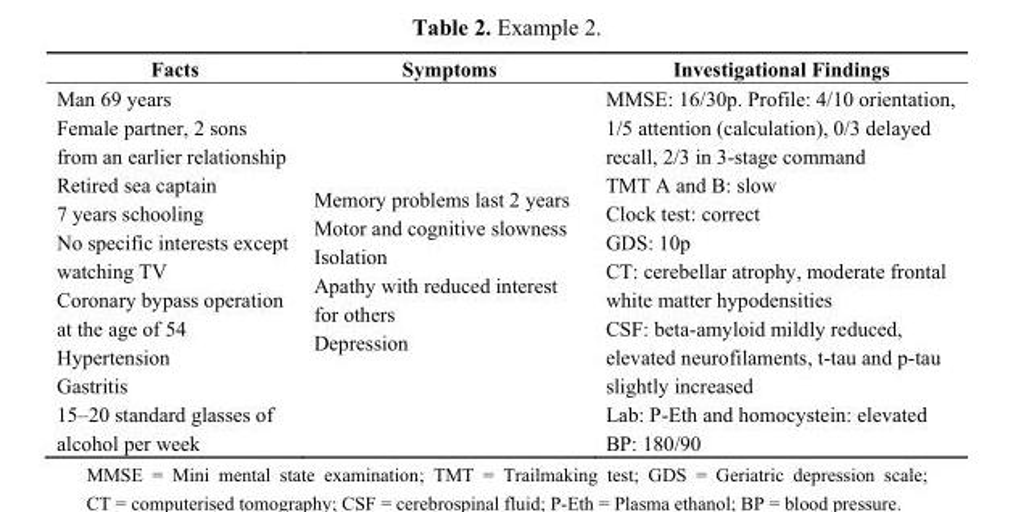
<table><thead><tr><td>Facts</td><td>Symptoms</td><td>Investigational Findings</td></tr></thead><tbody><tr><td>Man 69 years Female partner, 2 sons from an earlier relationship Retired sea captain 7 years schooling No specific interests except watching TV Coronary bypass operation at the age of 54 Hypertension Gastritis 15–20 standard glasses of alcohol per week</td><td>Memory problems last 2 years Motor and cognitive slowness Isolation Apathy with reduced interest for others Depression</td><td>MMSE: 16/30p. Profile: 4/10 orientation, 1/5 attention (calculation), 0/3 delayed recall, 2/3 in 3-stage command TMT A and B: slow Clock test: correct GDS: 10p CT: cerebellar atrophy, moderate frontal white matter hypodensities CSF: beta-amyloid mildly reduced, elevated neurofilaments, t-tau and p-tau slightly increased Lab: P-Eth and homocystein: elevated BP: 180/90</td></tr></tbody></table>